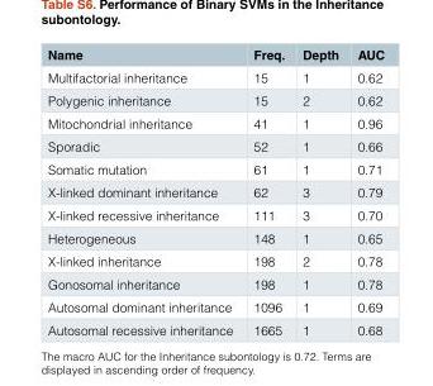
<table><thead><tr><td>Name</td><td>Freq.</td><td>Depth</td><td>AUC</td></tr></thead><tbody><tr><td>Multifactorial inheritance</td><td>15</td><td>1</td><td>0.62</td></tr><tr><td>Polygenic inheritance</td><td>15</td><td>2</td><td>0.62</td></tr><tr><td>Mitochondrial inheritance</td><td>41</td><td>1</td><td>0.96</td></tr><tr><td>Sporadic</td><td>52</td><td>1</td><td>0.66</td></tr><tr><td>Somatic mutation</td><td>61</td><td>1</td><td>0.71</td></tr><tr><td>X-linked dominant inheritance</td><td>62</td><td>3</td><td>0.79</td></tr><tr><td>X-linked recessive inheritance</td><td>111</td><td>3</td><td>0.70</td></tr><tr><td>Heterogeneous</td><td>148</td><td>1</td><td>0.65</td></tr><tr><td>X-linked inheritance</td><td>198</td><td>2</td><td>0.78</td></tr><tr><td>Gonosomal inheritance</td><td>198</td><td>1</td><td>0.78</td></tr><tr><td>Autosomal dominant inheritance</td><td>1096</td><td>1</td><td>0.69</td></tr><tr><td>Autosomal recessive inheritance</td><td>1665</td><td>1</td><td>0.68</td></tr></tbody></table>